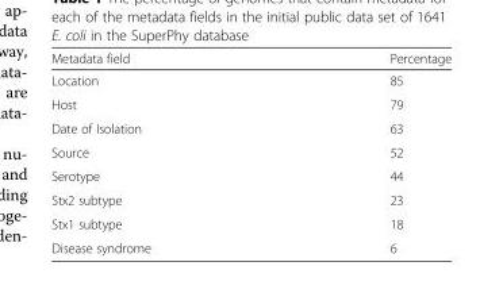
<table><thead><tr><td>Metadata field</td><td>Percentage</td></tr></thead><tbody><tr><td>Location</td><td>85</td></tr><tr><td>Host</td><td>79</td></tr><tr><td>Date of Isolation</td><td>63</td></tr><tr><td>Source</td><td>52</td></tr><tr><td>Serotype</td><td>44</td></tr><tr><td>Stx2 subtype</td><td>23</td></tr><tr><td>Stx1 subtype</td><td>18</td></tr><tr><td>Disease syndrome</td><td>6</td></tr></tbody></table>